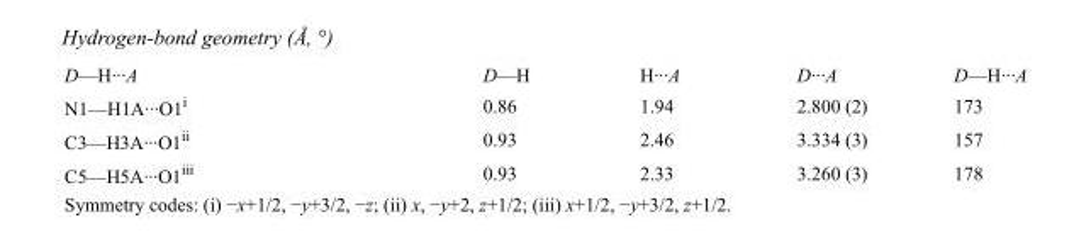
<table><tbody><tr><td>D—H···A</td><td>D—H</td><td>H···A</td><td>D···A</td><td>D—H···A</td></tr><tr><td>N1—H1A···O1<sup>i</sup></td><td>0.86</td><td>1.94</td><td>2.800 (2)</td><td>173</td></tr><tr><td>C3—H3A···O1<sup>ii</sup></td><td>0.93</td><td>2.46</td><td>3.334 (3)</td><td>157</td></tr><tr><td>C5—H5A···O1<sup>iii</sup></td><td>0.93</td><td>2.33</td><td>3.260 (3)</td><td>178</td></tr></tbody></table>